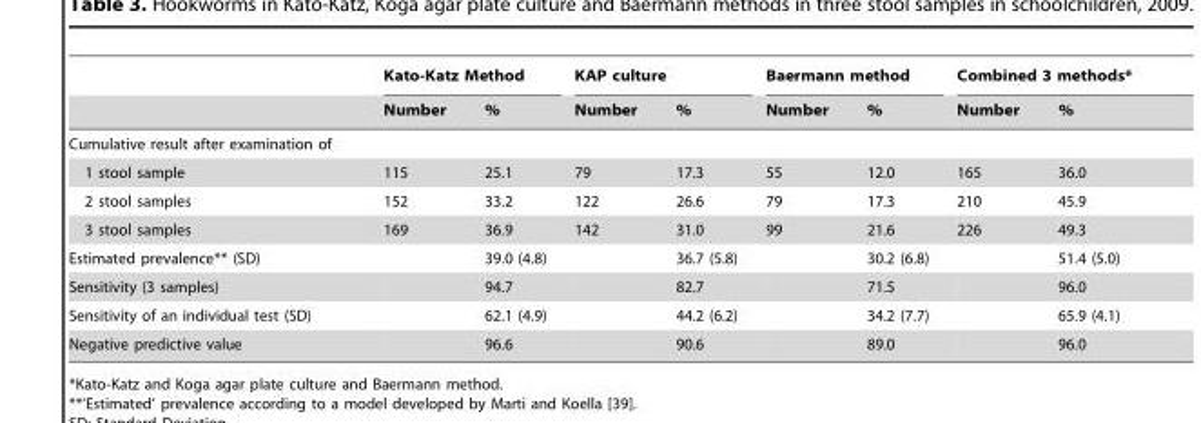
<table><thead><tr><td rowspan="2"></td><td colspan="2">Kato-Katz Method</td><td colspan="2">KAP culture</td><td colspan="2">Baermann method</td><td colspan="2">Combined 3 methods*</td></tr><tr><td>Number</td><td>%</td><td>Number</td><td>%</td><td>Number</td><td>%</td><td>Number</td><td>%</td></tr></thead><tbody><tr><td colspan="9">Cumulative result after examination of</td></tr><tr><td>1 stool sample</td><td>115</td><td>25.1</td><td>79</td><td>17.3</td><td>55</td><td>12.0</td><td>165</td><td>36.0</td></tr><tr><td>2 stool samples</td><td>152</td><td>33.2</td><td>122</td><td>26.6</td><td>79</td><td>17.3</td><td>210</td><td>45.9</td></tr><tr><td>3 stool samples</td><td>169</td><td>36.9</td><td>142</td><td>31.0</td><td>99</td><td>21.6</td><td>226</td><td>49.3</td></tr><tr><td>Estimated prevalence** (SD)</td><td></td><td>39.0 (4.8)</td><td></td><td>36.7 (5.8)</td><td></td><td>30.2 (6.8)</td><td></td><td>51.4 (5.0)</td></tr><tr><td>Sensitivity (3 samples)</td><td></td><td>94.7</td><td></td><td>82.7</td><td></td><td>71.5</td><td></td><td>96.0</td></tr><tr><td>Sensitivity of an individual test (SD)</td><td></td><td>62.1 (4.9)</td><td></td><td>44.2 (6.2)</td><td></td><td>34.2 (7.7)</td><td></td><td>65.9 (4.1)</td></tr><tr><td>Negative predictive value</td><td></td><td>96.6</td><td></td><td>90.6</td><td></td><td>89.0</td><td></td><td>96.0</td></tr></tbody></table>